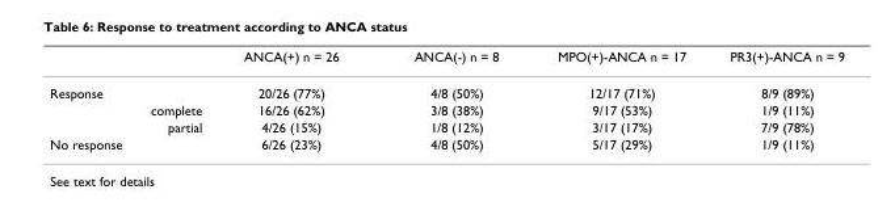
<table><thead><tr><td></td><td>ANCA(+) n = 26</td><td>ANCA(-) n = 8</td><td>MPO(+)-ANCA n = 17</td><td>PR3(+)-ANCA n = 9</td></tr></thead><tbody><tr><td>Response</td><td>20/26 (77%)</td><td>4/8 (50%)</td><td>12/17 (71%)</td><td>8/9 (89%)</td></tr><tr><td>complete</td><td>16/26 (62%)</td><td>3/8 (38%)</td><td>9/17 (53%)</td><td>1/9 (11%)</td></tr><tr><td>partial</td><td>4/26 (15%)</td><td>1/8 (12%)</td><td>3/17 (17%)</td><td>7/9 (78%)</td></tr><tr><td>No response</td><td>6/26 (23%)</td><td>4/8 (50%)</td><td>5/17 (29%)</td><td>1/9 (11%)</td></tr></tbody></table>